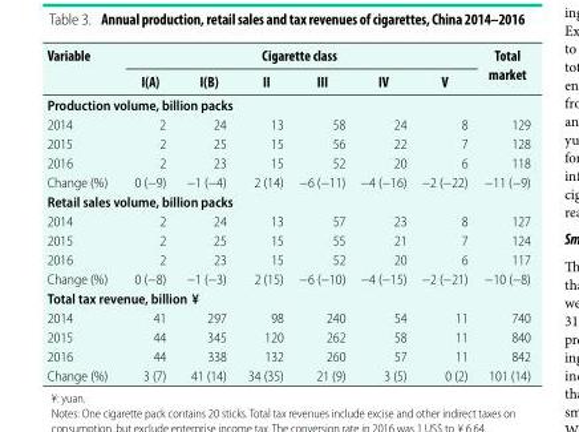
<table><thead><tr><td rowspan="2">Variable</td><td colspan="6">Cigarette class</td><td rowspan="2">Total market</td></tr><tr><td>I(A)</td><td>I(B)</td><td>II</td><td>III</td><td>IV</td><td>V</td></tr></thead><tbody><tr><td colspan="8">Production volume, billion packs</td></tr><tr><td>2014</td><td>2</td><td>24</td><td>13</td><td>58</td><td>24</td><td>8</td><td>129</td></tr><tr><td>2015</td><td>2</td><td>25</td><td>15</td><td>56</td><td>22</td><td>7</td><td>128</td></tr><tr><td>2016</td><td>2</td><td>23</td><td>15</td><td>52</td><td>20</td><td>6</td><td>118</td></tr><tr><td>Change (%)</td><td>0 (−9)</td><td>−1 (−4)</td><td>2 (14)</td><td>−6 (−11)</td><td>−4 (−16)</td><td>−2 (−22)</td><td>−11 (−9)</td></tr><tr><td colspan="8">Retail sales volume, billion packs</td></tr><tr><td>2014</td><td>2</td><td>24</td><td>13</td><td>57</td><td>23</td><td>8</td><td>127</td></tr><tr><td>2015</td><td>2</td><td>25</td><td>15</td><td>55</td><td>21</td><td>7</td><td>124</td></tr><tr><td>2016</td><td>2</td><td>23</td><td>15</td><td>52</td><td>20</td><td>6</td><td>117</td></tr><tr><td>Change (%)</td><td>0 (−8)</td><td>−1 (−3)</td><td>2 (15)</td><td>−6 (−10)</td><td>−4 (−15)</td><td>−2 (−21)</td><td>−10 (−8)</td></tr><tr><td colspan="8">Total tax revenue, billion ¥</td></tr><tr><td>2014</td><td>41</td><td>297</td><td>98</td><td>240</td><td>54</td><td>11</td><td>740</td></tr><tr><td>2015</td><td>44</td><td>345</td><td>120</td><td>262</td><td>58</td><td>11</td><td>840</td></tr><tr><td>2016</td><td>44</td><td>338</td><td>132</td><td>260</td><td>57</td><td>11</td><td>842</td></tr><tr><td>Change (%)</td><td>3 (7)</td><td>41 (14)</td><td>34 (35)</td><td>21 (9)</td><td>3 (5)</td><td>0 (2)</td><td>101 (14)</td></tr></tbody></table>